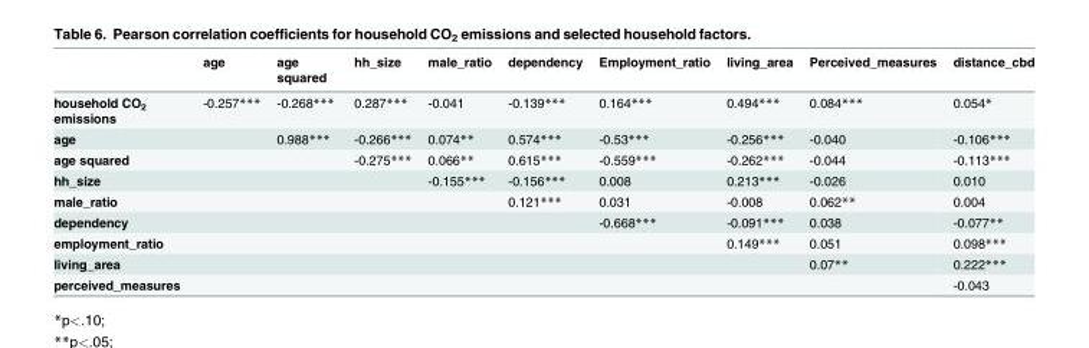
<table><thead><tr><td></td><td>age</td><td>age squared</td><td>hh_size</td><td>male_ratio</td><td>dependency</td><td>Employment_ratio</td><td>living_area</td><td>Perceived_measures</td><td>distance_cbd</td></tr></thead><tbody><tr><td>household CO<sub>2</sub> emissions</td><td>-0.257***</td><td>-0.268***</td><td>0.287***</td><td>-0.041</td><td>-0.139***</td><td>0.164***</td><td>0.494***</td><td>0.084***</td><td>0.054*</td></tr><tr><td>age</td><td></td><td>0.988***</td><td>-0.266***</td><td>0.074**</td><td>0.574***</td><td>-0.53***</td><td>-0.256***</td><td>-0.040</td><td>-0.106***</td></tr><tr><td>age squared</td><td></td><td></td><td>-0.275***</td><td>0.066**</td><td>0.615***</td><td>-0.559***</td><td>-0.262***</td><td>-0.044</td><td>-0.113***</td></tr><tr><td>hh_size</td><td></td><td></td><td></td><td>-0.155***</td><td>-0.156***</td><td>0.008</td><td>0.213***</td><td>-0.026</td><td>0.010</td></tr><tr><td>male_ratio</td><td></td><td></td><td></td><td></td><td>0.121***</td><td>0.031</td><td>-0.008</td><td>0.062**</td><td>0.004</td></tr><tr><td>dependency</td><td></td><td></td><td></td><td></td><td></td><td>-0.668***</td><td>-0.091***</td><td>0.038</td><td>-0.077**</td></tr><tr><td>employment_ratio</td><td></td><td></td><td></td><td></td><td></td><td></td><td>0.149***</td><td>0.051</td><td>0.098***</td></tr><tr><td>living_area</td><td></td><td></td><td></td><td></td><td></td><td></td><td></td><td>0.07**</td><td>0.222***</td></tr><tr><td>perceived_measures</td><td></td><td></td><td></td><td></td><td></td><td></td><td></td><td></td><td>-0.043</td></tr></tbody></table>